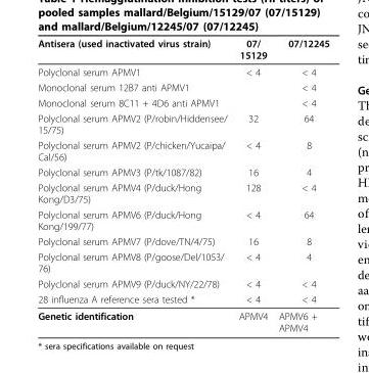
<table><thead><tr><td>Antisera (used inactivated virus strain)</td><td>07/ 15129</td><td>07/12245</td></tr></thead><tbody><tr><td>Polyclonal serum APMV1</td><td>&lt; 4</td><td>&lt; 4</td></tr><tr><td>Monoclonal serum 12B7 anti APMV1</td><td></td><td>&lt; 4</td></tr><tr><td>Monoclonal serum 8C11 + 4D6 anti APMV1</td><td></td><td>&lt; 4</td></tr><tr><td>Polyclonal serum APMV2 (P/robin/Hiddensee/ 15/75)</td><td>32</td><td>64</td></tr><tr><td>Polyclonal serum APMV2 (P/chicken/Yucaipa/ Cal/56)</td><td>&lt; 4</td><td>8</td></tr><tr><td>Polyclonal serum APMV3 (P/tk/1087/82)</td><td>16</td><td>4</td></tr><tr><td>Polyclonal serum APMV4 (P/duck/Hong Kong/D3/75)</td><td>128</td><td>&lt; 4</td></tr><tr><td>Polyclonal serum APMV6 (P/duck/Hong Kong/199/77)</td><td>&lt; 4</td><td>64</td></tr><tr><td>Polyclonal serum APMV7 (P/dove/TN/4/75)</td><td>16</td><td>8</td></tr><tr><td>Polyclonal serum APMV8 (P/goose/Del/1053/ 76)</td><td>&lt; 4</td><td>4</td></tr><tr><td>Polyclonal serum APMV9 (P/duck/NY/22/78)</td><td>&lt; 4</td><td>&lt; 4</td></tr><tr><td>28 influenza A reference sera tested *</td><td>&lt; 4</td><td>&lt; 4</td></tr><tr><td>Genetic identification</td><td>APMV4</td><td>APMV6 + APMV4</td></tr></tbody></table>